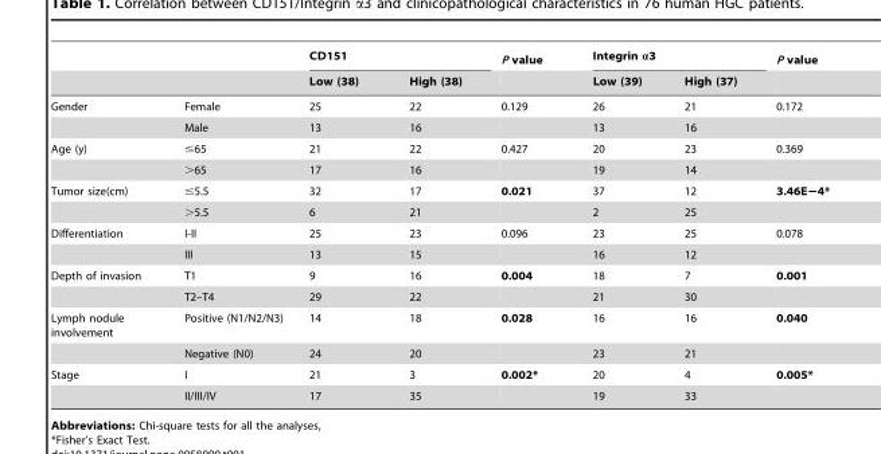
<table><thead><tr><td rowspan="2"></td><td rowspan="2"></td><td colspan="2">CD151</td><td rowspan="2">P value</td><td colspan="2">Integrin α3</td><td rowspan="2">P value</td></tr><tr><td>Low (38)</td><td>High (38)</td><td>Low (39)</td><td>High (37)</td></tr></thead><tbody><tr><td rowspan="2">Gender</td><td>Female</td><td>25</td><td>22</td><td>0.129</td><td>26</td><td>21</td><td>0.172</td></tr><tr><td>Male</td><td>13</td><td>16</td><td></td><td>13</td><td>16</td><td></td></tr><tr><td rowspan="2">Age (y)</td><td>≤65</td><td>21</td><td>22</td><td>0.427</td><td>20</td><td>23</td><td>0.369</td></tr><tr><td>&gt;65</td><td>17</td><td>16</td><td></td><td>19</td><td>14</td><td></td></tr><tr><td rowspan="2">Tumor size(cm)</td><td>≤5.5</td><td>32</td><td>17</td><td>0.021</td><td>37</td><td>12</td><td>3.46E−4*</td></tr><tr><td>&gt;5.5</td><td>6</td><td>21</td><td></td><td>2</td><td>25</td><td></td></tr><tr><td rowspan="2">Differentiation</td><td>I-II</td><td>25</td><td>23</td><td>0.096</td><td>23</td><td>25</td><td>0.078</td></tr><tr><td>III</td><td>13</td><td>15</td><td></td><td>16</td><td>12</td><td></td></tr><tr><td rowspan="2">Depth of invasion</td><td>T1</td><td>9</td><td>16</td><td>0.004</td><td>18</td><td>7</td><td>0.001</td></tr><tr><td>T2–T4</td><td>29</td><td>22</td><td></td><td>21</td><td>30</td><td></td></tr><tr><td rowspan="2">Lymph nodule involvement</td><td>Positive (N1/N2/N3)</td><td>14</td><td>18</td><td>0.028</td><td>16</td><td>16</td><td>0.040</td></tr><tr><td>Negative (N0)</td><td>24</td><td>20</td><td></td><td>23</td><td>21</td><td></td></tr><tr><td rowspan="2">Stage</td><td>I</td><td>21</td><td>3</td><td>0.002*</td><td>20</td><td>4</td><td>0.005*</td></tr><tr><td>II/III/IV</td><td>17</td><td>35</td><td></td><td>19</td><td>33</td><td></td></tr></tbody></table>